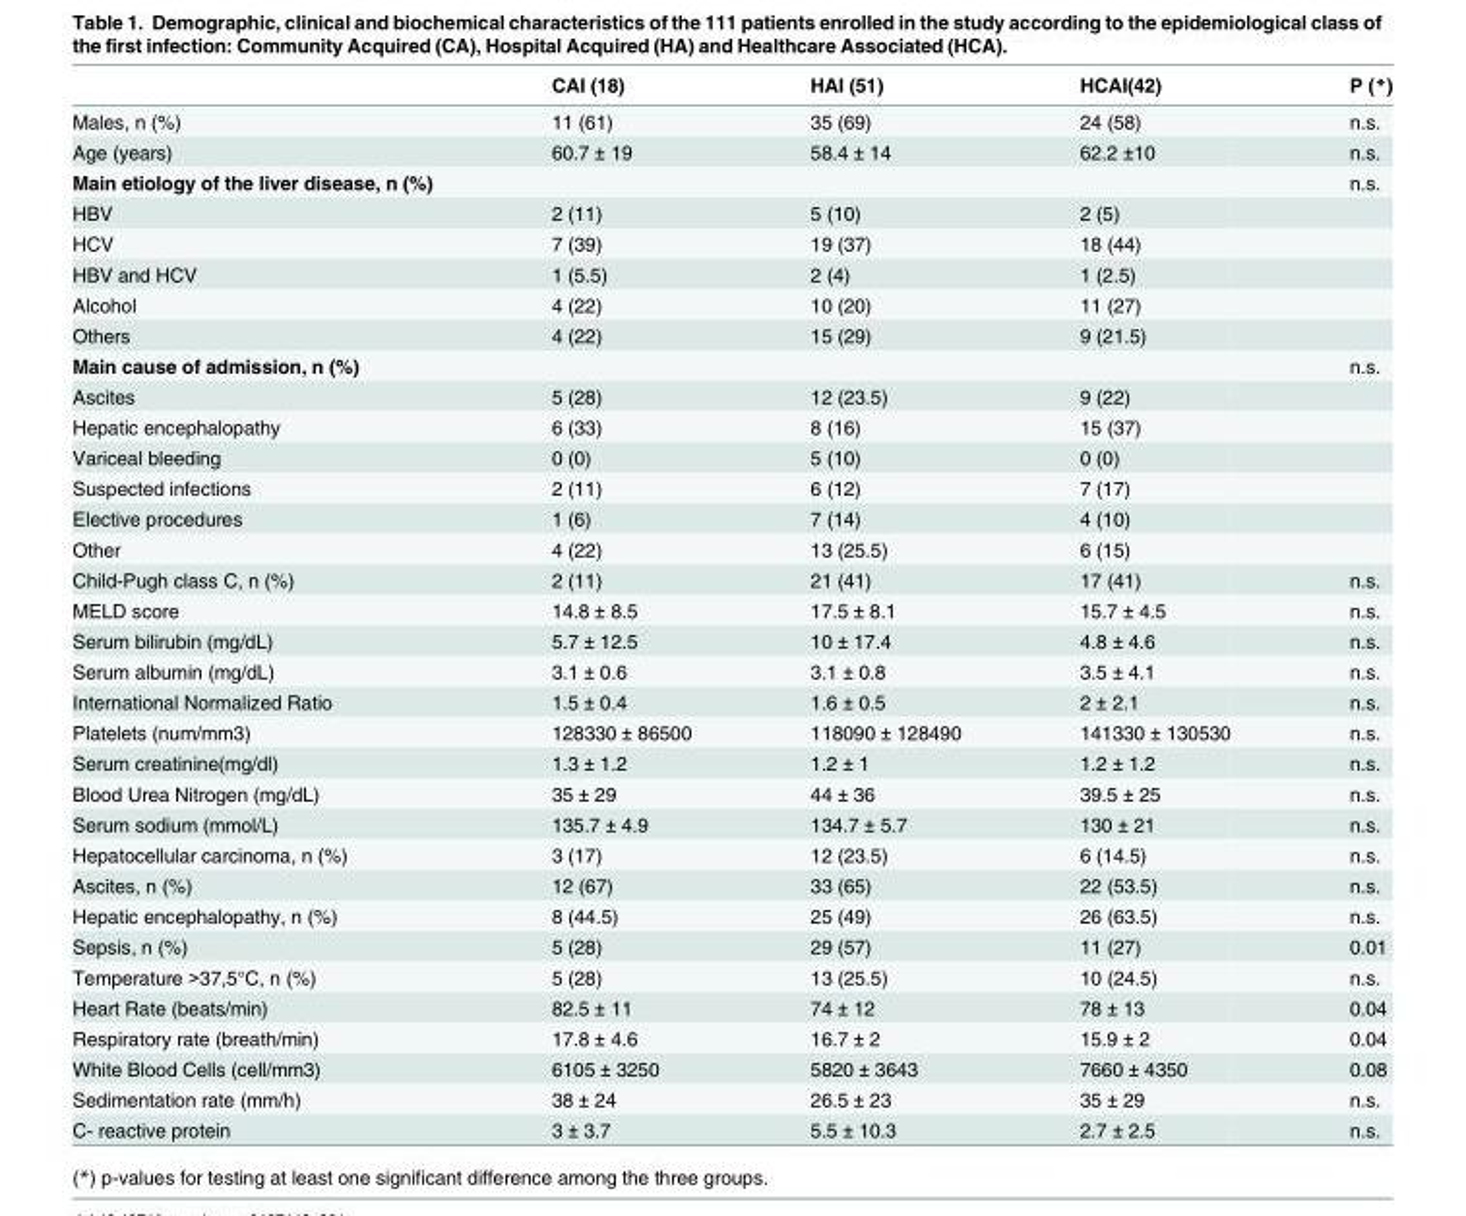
<table><thead><tr><td></td><td>CAI (18)</td><td>HAI (51)</td><td>HCAI(42)</td><td>P (*)</td></tr></thead><tbody><tr><td>Males, n (%)</td><td>11 (61)</td><td>35 (69)</td><td>24 (58)</td><td>n.s.</td></tr><tr><td>Age (years)</td><td>60.7 ± 19</td><td>58.4 ± 14</td><td>62.2 ±10</td><td>n.s.</td></tr><tr><td>Main etiology of the liver disease, n (%)</td><td></td><td></td><td></td><td>n.s.</td></tr><tr><td>HBV</td><td>2 (11)</td><td>5 (10)</td><td>2 (5)</td><td></td></tr><tr><td>HCV</td><td>7 (39)</td><td>19 (37)</td><td>18 (44)</td><td></td></tr><tr><td>HBV and HCV</td><td>1 (5.5)</td><td>2 (4)</td><td>1 (2.5)</td><td></td></tr><tr><td>Alcohol</td><td>4 (22)</td><td>10 (20)</td><td>11 (27)</td><td></td></tr><tr><td>Others</td><td>4 (22)</td><td>15 (29)</td><td>9 (21.5)</td><td></td></tr><tr><td>Main cause of admission, n (%)</td><td></td><td></td><td></td><td>n.s.</td></tr><tr><td>Ascites</td><td>5 (28)</td><td>12 (23.5)</td><td>9 (22)</td><td></td></tr><tr><td>Hepatic encephalopathy</td><td>6 (33)</td><td>8 (16)</td><td>15 (37)</td><td></td></tr><tr><td>Variceal bleeding</td><td>0 (0)</td><td>5 (10)</td><td>0 (0)</td><td></td></tr><tr><td>Suspected infections</td><td>2 (11)</td><td>6 (12)</td><td>7 (17)</td><td></td></tr><tr><td>Elective procedures</td><td>1 (6)</td><td>7 (14)</td><td>4 (10)</td><td></td></tr><tr><td>Other</td><td>4 (22)</td><td>13 (25.5)</td><td>6 (15)</td><td></td></tr><tr><td>Child-Pugh class C, n (%)</td><td>2 (11)</td><td>21 (41)</td><td>17 (41)</td><td>n.s.</td></tr><tr><td>MELD score</td><td>14.8 ± 8.5</td><td>17.5 ± 8.1</td><td>15.7 ± 4.5</td><td>n.s.</td></tr><tr><td>Serum bilirubin (mg/dL)</td><td>5.7 ± 12.5</td><td>10 ± 17.4</td><td>4.8 ± 4.6</td><td>n.s.</td></tr><tr><td>Serum albumin (mg/dL)</td><td>3.1 ± 0.6</td><td>3.1 ± 0.8</td><td>3.5 ± 4.1</td><td>n.s.</td></tr><tr><td>International Normalized Ratio</td><td>1.5 ± 0.4</td><td>1.6 ± 0.5</td><td>2 ± 2.1</td><td>n.s.</td></tr><tr><td>Platelets (num/mm3)</td><td>128330 ± 86500</td><td>118090 ± 128490</td><td>141330 ± 130530</td><td>n.s.</td></tr><tr><td>Serum creatinine(mg/dl)</td><td>1.3 ± 1.2</td><td>1.2 ± 1</td><td>1.2 ± 1.2</td><td>n.s.</td></tr><tr><td>Blood Urea Nitrogen (mg/dL)</td><td>35 ± 29</td><td>44 ± 36</td><td>39.5 ± 25</td><td>n.s.</td></tr><tr><td>Serum sodium (mmol/L)</td><td>135.7 ± 4.9</td><td>134.7 ± 5.7</td><td>130 ± 21</td><td>n.s.</td></tr><tr><td>Hepatocellular carcinoma, n (%)</td><td>3 (17)</td><td>12 (23.5)</td><td>6 (14.5)</td><td>n.s.</td></tr><tr><td>Ascites, n (%)</td><td>12 (67)</td><td>33 (65)</td><td>22 (53.5)</td><td>n.s.</td></tr><tr><td>Hepatic encephalopathy, n (%)</td><td>8 (44.5)</td><td>25 (49)</td><td>26 (63.5)</td><td>n.s.</td></tr><tr><td>Sepsis, n (%)</td><td>5 (28)</td><td>29 (57)</td><td>11 (27)</td><td>0.01</td></tr><tr><td>Temperature &gt;37,5°C, n (%)</td><td>5 (28)</td><td>13 (25.5)</td><td>10 (24.5)</td><td>n.s.</td></tr><tr><td>Heart Rate (beats/min)</td><td>82.5 ± 11</td><td>74 ± 12</td><td>78 ± 13</td><td>0.04</td></tr><tr><td>Respiratory rate (breath/min)</td><td>17.8 ± 4.6</td><td>16.7 ± 2</td><td>15.9 ± 2</td><td>0.04</td></tr><tr><td>White Blood Cells (cell/mm3)</td><td>6105 ± 3250</td><td>5820 ± 3643</td><td>7660 ± 4350</td><td>0.08</td></tr><tr><td>Sedimentation rate (mm/h)</td><td>38 ± 24</td><td>26.5 ± 23</td><td>35 ± 29</td><td>n.s.</td></tr><tr><td>C- reactive protein</td><td>3 ± 3.7</td><td>5.5 ± 10.3</td><td>2.7 ± 2.5</td><td>n.s.</td></tr></tbody></table>